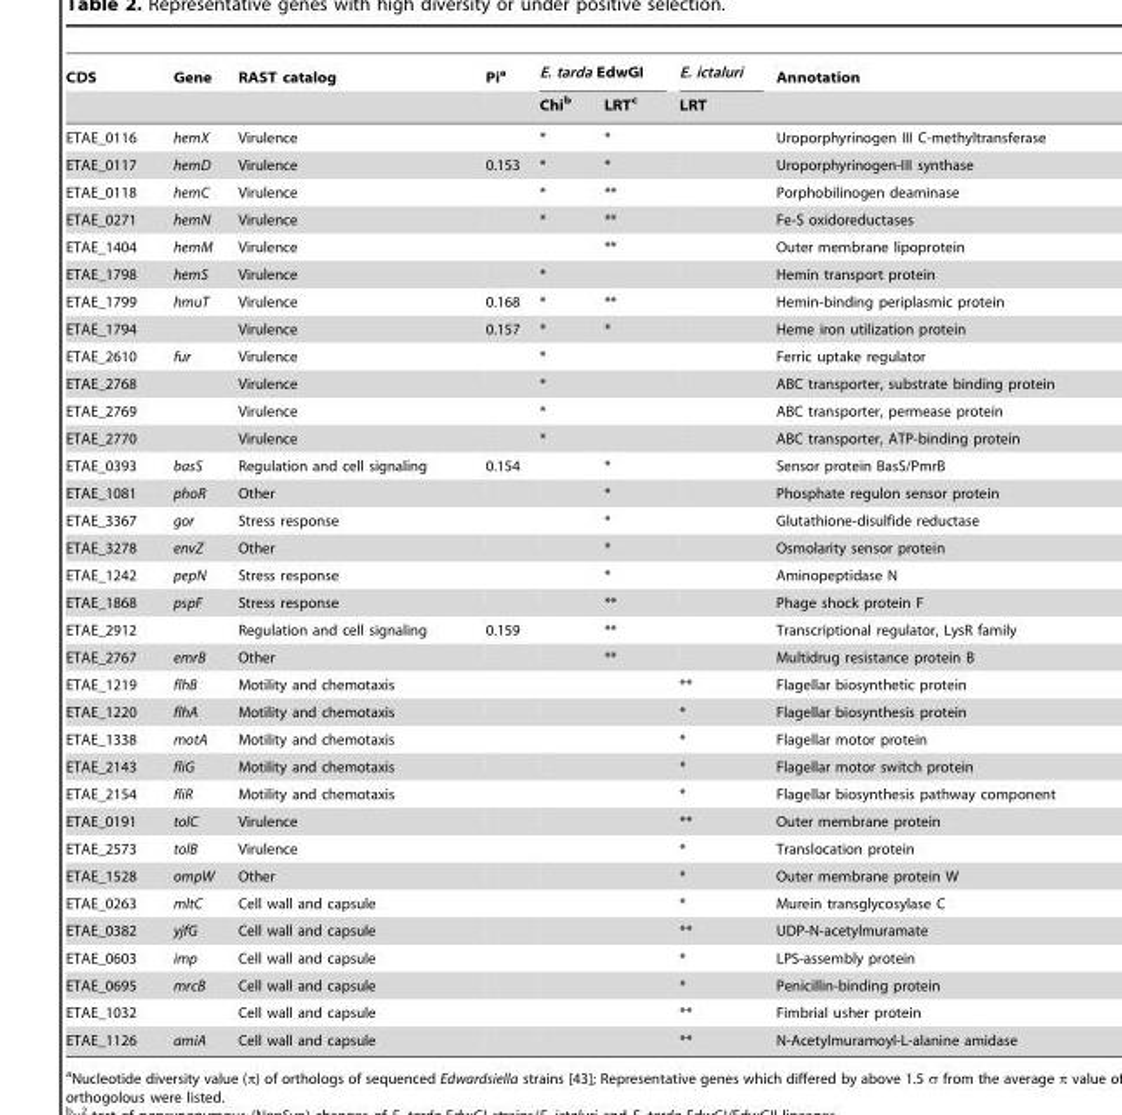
<table><thead><tr><td rowspan="2">CDS</td><td rowspan="2">Gene</td><td rowspan="2">RAST catalog</td><td rowspan="2">Pi<sup>a</sup></td><td colspan="2">E. tarda EdwGI</td><td rowspan="2">E. ictaluri LRT</td><td rowspan="2">Annotation</td></tr><tr><td>Chi<sup>b</sup></td><td>LRT<sup>c</sup></td></tr></thead><tbody><tr><td>ETAE_0116</td><td>hemX</td><td>Virulence</td><td></td><td>*</td><td>*</td><td></td><td>Uroporphyrinogen III C-methyltransferase</td></tr><tr><td>ETAE_0117</td><td>hemD</td><td>Virulence</td><td>0.153</td><td>*</td><td>*</td><td></td><td>Uroporphyrinogen-III synthase</td></tr><tr><td>ETAE_0118</td><td>hemC</td><td>Virulence</td><td></td><td>*</td><td>**</td><td></td><td>Porphobilinogen deaminase</td></tr><tr><td>ETAE_0271</td><td>hemN</td><td>Virulence</td><td></td><td>*</td><td>**</td><td></td><td>Fe-S oxidoreductases</td></tr><tr><td>ETAE_1404</td><td>hemM</td><td>Virulence</td><td></td><td></td><td>**</td><td></td><td>Outer membrane lipoprotein</td></tr><tr><td>ETAE_1798</td><td>hemS</td><td>Virulence</td><td></td><td>*</td><td></td><td></td><td>Hemin transport protein</td></tr><tr><td>ETAE_1799</td><td>hmuT</td><td>Virulence</td><td>0.168</td><td>*</td><td>**</td><td></td><td>Hemin-binding periplasmic protein</td></tr><tr><td>ETAE_1794</td><td></td><td>Virulence</td><td>0.157</td><td>*</td><td>*</td><td></td><td>Heme iron utilization protein</td></tr><tr><td>ETAE_2610</td><td>fur</td><td>Virulence</td><td></td><td>*</td><td></td><td></td><td>Ferric uptake regulator</td></tr><tr><td>ETAE_2768</td><td></td><td>Virulence</td><td></td><td>*</td><td></td><td></td><td>ABC transporter, substrate binding protein</td></tr><tr><td>ETAE_2769</td><td></td><td>Virulence</td><td></td><td>*</td><td></td><td></td><td>ABC transporter, permease protein</td></tr><tr><td>ETAE_2770</td><td></td><td>Virulence</td><td></td><td>*</td><td></td><td></td><td>ABC transporter, ATP-binding protein</td></tr><tr><td>ETAE_0393</td><td>basS</td><td>Regulation and cell signaling</td><td>0.154</td><td></td><td>*</td><td></td><td>Sensor protein BasS/PmrB</td></tr><tr><td>ETAE_1081</td><td>phoR</td><td>Other</td><td></td><td></td><td>*</td><td></td><td>Phosphate regulon sensor protein</td></tr><tr><td>ETAE_3367</td><td>gor</td><td>Stress response</td><td></td><td></td><td>*</td><td></td><td>Glutathione-disulfide reductase</td></tr><tr><td>ETAE_3278</td><td>envZ</td><td>Other</td><td></td><td></td><td>*</td><td></td><td>Osmolarity sensor protein</td></tr><tr><td>ETAE_1242</td><td>pepN</td><td>Stress response</td><td></td><td></td><td>*</td><td></td><td>Aminopeptidase N</td></tr><tr><td>ETAE_1868</td><td>pspF</td><td>Stress response</td><td></td><td></td><td>**</td><td></td><td>Phage shock protein F</td></tr><tr><td>ETAE_2912</td><td></td><td>Regulation and cell signaling</td><td>0.159</td><td></td><td>**</td><td></td><td>Transcriptional regulator, LysR family</td></tr><tr><td>ETAE_2767</td><td>emrB</td><td>Other</td><td></td><td></td><td>**</td><td></td><td>Multidrug resistance protein B</td></tr><tr><td>ETAE_1219</td><td>flhB</td><td>Motility and chemotaxis</td><td></td><td></td><td></td><td>**</td><td>Flagellar biosynthetic protein</td></tr><tr><td>ETAE_1220</td><td>flhA</td><td>Motility and chemotaxis</td><td></td><td></td><td></td><td>*</td><td>Flagellar biosynthesis protein</td></tr><tr><td>ETAE_1338</td><td>motA</td><td>Motility and chemotaxis</td><td></td><td></td><td></td><td>*</td><td>Flagellar motor protein</td></tr><tr><td>ETAE_2143</td><td>fliG</td><td>Motility and chemotaxis</td><td></td><td></td><td></td><td>*</td><td>Flagellar motor switch protein</td></tr><tr><td>ETAE_2154</td><td>fliR</td><td>Motility and chemotaxis</td><td></td><td></td><td></td><td>*</td><td>Flagellar biosynthesis pathway component</td></tr><tr><td>ETAE_0191</td><td>tolC</td><td>Virulence</td><td></td><td></td><td></td><td>**</td><td>Outer membrane protein</td></tr><tr><td>ETAE_2573</td><td>tolB</td><td>Virulence</td><td></td><td></td><td></td><td>*</td><td>Translocation protein</td></tr><tr><td>ETAE_1528</td><td>ompW</td><td>Other</td><td></td><td></td><td></td><td>*</td><td>Outer membrane protein W</td></tr><tr><td>ETAE_0263</td><td>mltC</td><td>Cell wall and capsule</td><td></td><td></td><td></td><td>*</td><td>Murein transglycosylase C</td></tr><tr><td>ETAE_0382</td><td>yjfG</td><td>Cell wall and capsule</td><td></td><td></td><td></td><td>**</td><td>UDP-N-acetylmuramate</td></tr><tr><td>ETAE_0603</td><td>imp</td><td>Cell wall and capsule</td><td></td><td></td><td></td><td>*</td><td>LPS-assembly protein</td></tr><tr><td>ETAE_0695</td><td>mrcB</td><td>Cell wall and capsule</td><td></td><td></td><td></td><td>*</td><td>Penicillin-binding protein</td></tr><tr><td>ETAE_1032</td><td></td><td>Cell wall and capsule</td><td></td><td></td><td></td><td>**</td><td>Fimbrial usher protein</td></tr><tr><td>ETAE_1126</td><td>amiA</td><td>Cell wall and capsule</td><td></td><td></td><td></td><td>**</td><td>N-Acetylmuramoyl-L-alanine amidase</td></tr></tbody></table>